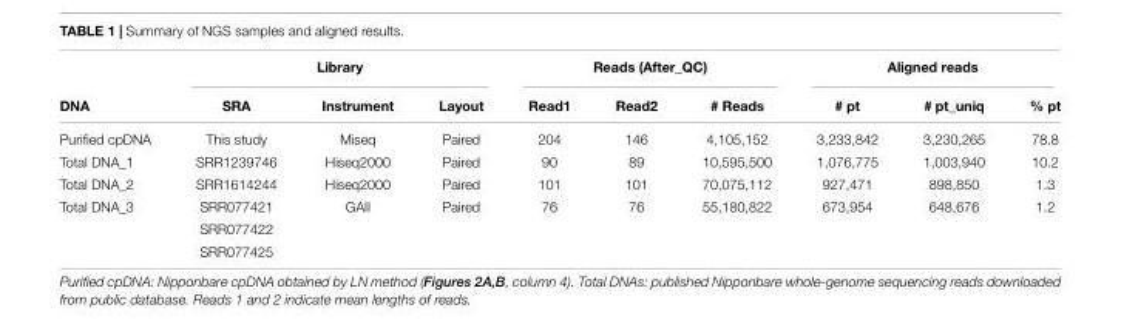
<table><thead><tr><td rowspan="2">DNA</td><td colspan="3">Library</td><td colspan="3">Reads (After_QC)</td><td colspan="3">Aligned reads</td></tr><tr><td>SRA</td><td>Instrument</td><td>Layout</td><td>Read1</td><td>Read2</td><td># Reads</td><td># pt</td><td># pt_uniq</td><td>% pt</td></tr></thead><tbody><tr><td>Purified cpDNA</td><td>This study</td><td>Miseq</td><td>Paired</td><td>204</td><td>146</td><td>4,105,152</td><td>3,233,842</td><td>3,230,265</td><td>78.8</td></tr><tr><td>Total DNA_1</td><td>SRR1239746</td><td>Hiseq2000</td><td>Paired</td><td>90</td><td>89</td><td>10,595,500</td><td>1,076,775</td><td>1,003,940</td><td>10.2</td></tr><tr><td>Total DNA_2</td><td>SRR1614244</td><td>Hiseq2000</td><td>Paired</td><td>101</td><td>101</td><td>70,075,112</td><td>927,471</td><td>898,850</td><td>1.3</td></tr><tr><td rowspan="3">Total DNA_3</td><td>SRR077421</td><td>GAII</td><td>Paired</td><td>76</td><td>76</td><td>55,180,822</td><td>673,954</td><td>648,676</td><td>1.2</td></tr><tr><td>SRR077422</td><td></td><td></td><td></td><td></td><td></td><td></td><td></td><td></td></tr><tr><td>SRR077425</td><td></td><td></td><td></td><td></td><td></td><td></td><td></td><td></td></tr></tbody></table>